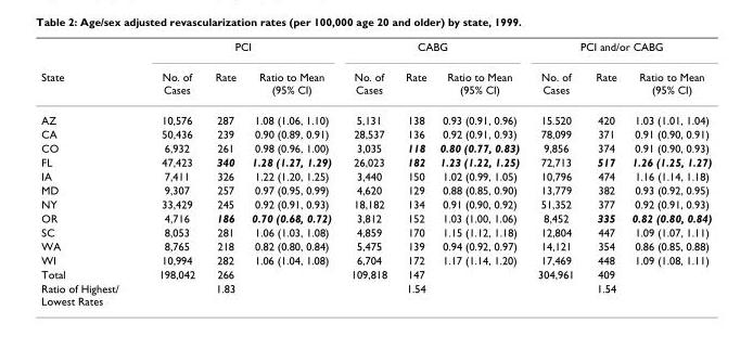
<table><thead><tr><td rowspan="2">State</td><td colspan="3">PCI</td><td colspan="3">CABG</td><td colspan="3">PCI and/or CABG</td></tr><tr><td>No. of Cases</td><td>Rate</td><td>Ratio to Mean (95% CI)</td><td>No. of Cases</td><td>Rate</td><td>Ratio to Mean (95% CI)</td><td>No. of Cases</td><td>Rate</td><td>Ratio to Mean (95% CI)</td></tr></thead><tbody><tr><td>AZ</td><td>10,576</td><td>287</td><td>1.08 (1.06, 1.10)</td><td>5,131</td><td>138</td><td>0.93 (0.91, 0.96)</td><td>15.520</td><td>420</td><td>1.03 (1.01, 1.04)</td></tr><tr><td>CA</td><td>50,436</td><td>239</td><td>0.90 (0.89, 0.91)</td><td>28,537</td><td>136</td><td>0.92 (0.91, 0.93)</td><td>78,099</td><td>371</td><td>0.91 (0.90, 0.91)</td></tr><tr><td>CO</td><td>6,932</td><td>261</td><td>0.98 (0.96, 1.00)</td><td>3,035</td><td>118</td><td>0.80 (0.77, 0.83)</td><td>9,856</td><td>374</td><td>0.91 (0.90, 0.93)</td></tr><tr><td>FL</td><td>47,423</td><td>340</td><td>1.28 (1.27, 1.29)</td><td>26,023</td><td>182</td><td>1.23 (1.22, 1.25)</td><td>72,713</td><td>517</td><td>1.26 (1.25, 1.27)</td></tr><tr><td>IA</td><td>7,411</td><td>326</td><td>1.22 (1.20, 1.25)</td><td>3,440</td><td>150</td><td>1.02 (0.99, 1.05)</td><td>10,796</td><td>474</td><td>1.16 (1.14, 1.18)</td></tr><tr><td>MD</td><td>9,307</td><td>257</td><td>0.97 (0.95, 0.99)</td><td>4,620</td><td>129</td><td>0.88 (0.85, 0.90)</td><td>13,779</td><td>382</td><td>0.93 (0.92, 0.95)</td></tr><tr><td>NY</td><td>33,429</td><td>245</td><td>0.92 (0.91, 0.93)</td><td>18,182</td><td>134</td><td>0.91 (0.90, 0.92)</td><td>51,352</td><td>377</td><td>0.92 (0.91, 0.93)</td></tr><tr><td>OR</td><td>4,716</td><td>186</td><td>0.70 (0.68, 0.72)</td><td>3,812</td><td>152</td><td>1.03 (1.00, 1.06)</td><td>8,452</td><td>335</td><td>0.82 (0.80, 0.84)</td></tr><tr><td>SC</td><td>8,053</td><td>281</td><td>1.06 (1.03, 1.08)</td><td>4,859</td><td>170</td><td>1.15 (1.12, 1.18)</td><td>12,804</td><td>447</td><td>1.09 (1.07, 1.11)</td></tr><tr><td>WA</td><td>8,765</td><td>218</td><td>0.82 (0.80, 0.84)</td><td>5,475</td><td>139</td><td>0.94 (0.92, 0.97)</td><td>14,121</td><td>354</td><td>0.86 (0.85, 0.88)</td></tr><tr><td>WI</td><td>10,994</td><td>282</td><td>1.06 (1.04, 1.08)</td><td>6,704</td><td>172</td><td>1.17 (1.14, 1.20)</td><td>17,469</td><td>448</td><td>1.09 (1.08, 1.11)</td></tr><tr><td>Total</td><td>198,042</td><td>266</td><td></td><td>109,818</td><td>147</td><td></td><td>304,961</td><td>409</td><td></td></tr><tr><td>Ratio of Highest/ Lowest Rates</td><td></td><td>1.83</td><td></td><td></td><td>1.54</td><td></td><td></td><td>1.54</td><td></td></tr></tbody></table>